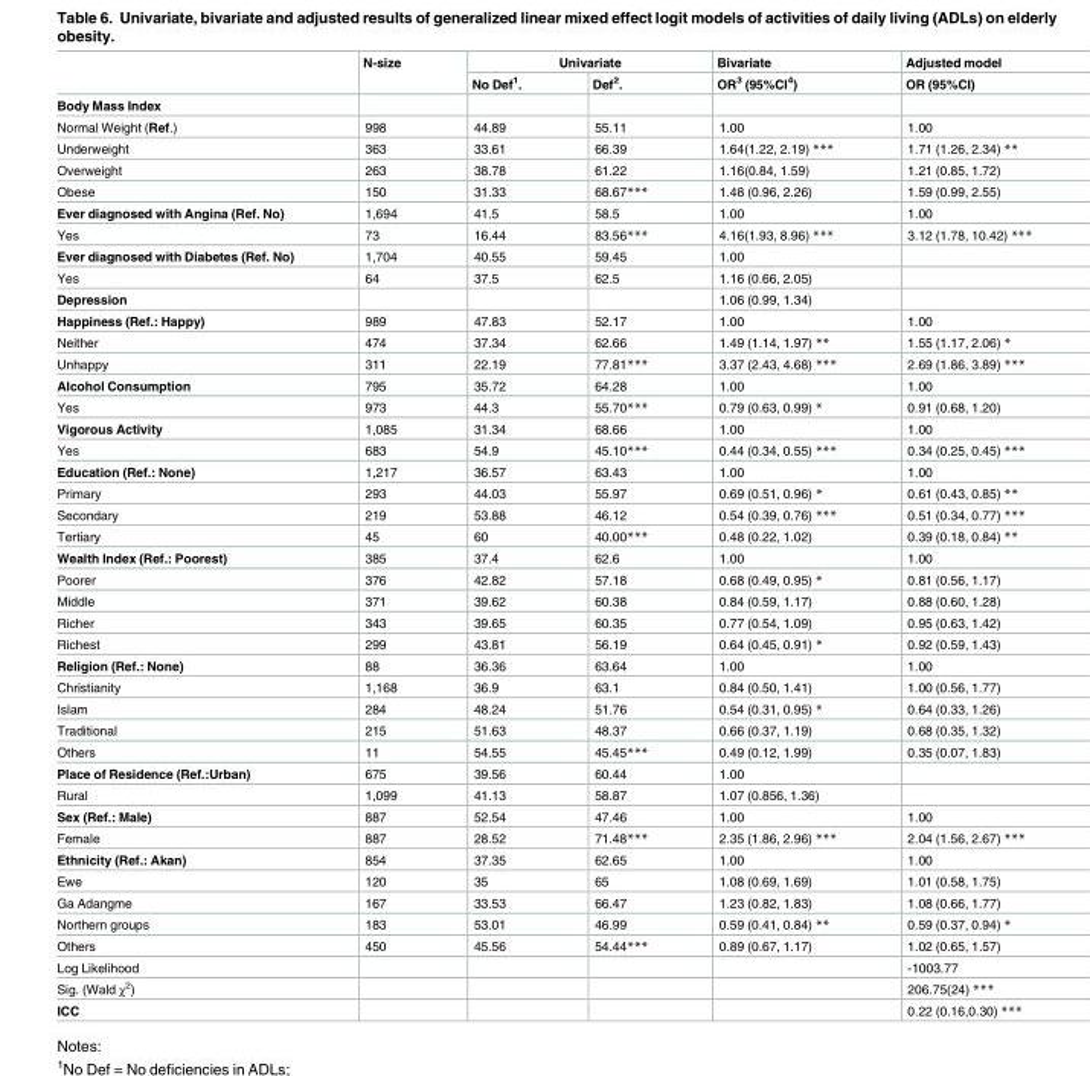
<table><thead><tr><td rowspan="2"></td><td rowspan="2">N-size</td><td colspan="2">Univariate</td><td rowspan="2">Bivariate OR<sup>3</sup> (95%CI<sup>4</sup>)</td><td rowspan="2">Adjusted model OR (95%CI)</td></tr><tr><td>No Def<sup>1</sup>.</td><td>Def<sup>2</sup>.</td></tr></thead><tbody><tr><td colspan="6">Body Mass Index</td></tr><tr><td>Normal Weight (Ref.)</td><td>998</td><td>44.89</td><td>55.11</td><td>1.00</td><td>1.00</td></tr><tr><td>Underweight</td><td>363</td><td>33.61</td><td>66.39</td><td>1.64(1.22, 2.19) ***</td><td>1.71 (1.26, 2.34) **</td></tr><tr><td>Overweight</td><td>263</td><td>38.78</td><td>61.22</td><td>1.16(0.84, 1.59)</td><td>1.21 (0.85, 1.72)</td></tr><tr><td>Obese</td><td>150</td><td>31.33</td><td>68.67***</td><td>1.48 (0.96, 2.26)</td><td>1.59 (0.99, 2.55)</td></tr><tr><td>Ever diagnosed with Angina (Ref. No)</td><td>1,694</td><td>41.5</td><td>58.5</td><td>1.00</td><td>1.00</td></tr><tr><td>Yes</td><td>73</td><td>16.44</td><td>83.56***</td><td>4.16(1.93, 8.96) ***</td><td>3.12 (1.78, 10.42) ***</td></tr><tr><td>Ever diagnosed with Diabetes (Ref. No)</td><td>1,704</td><td>40.55</td><td>59.45</td><td>1.00</td><td></td></tr><tr><td>Yes</td><td>64</td><td>37.5</td><td>62.5</td><td>1.16 (0.66, 2.05)</td><td></td></tr><tr><td>Depression</td><td></td><td></td><td></td><td>1.06 (0.99, 1.34)</td><td></td></tr><tr><td>Happiness (Ref.: Happy)</td><td>989</td><td>47.83</td><td>52.17</td><td>1.00</td><td>1.00</td></tr><tr><td>Neither</td><td>474</td><td>37.34</td><td>62.66</td><td>1.49 (1.14, 1.97) **</td><td>1.55 (1.17, 2.06) *</td></tr><tr><td>Unhappy</td><td>311</td><td>22.19</td><td>77.81***</td><td>3.37 (2.43, 4.68) ***</td><td>2.69 (1.86, 3.89) ***</td></tr><tr><td>Alcohol Consumption</td><td>795</td><td>35.72</td><td>64.28</td><td>1.00</td><td>1.00</td></tr><tr><td>Yes</td><td>973</td><td>44.3</td><td>55.70***</td><td>0.79 (0.63, 0.99) *</td><td>0.91 (0.68, 1.20)</td></tr><tr><td>Vigorous Activity</td><td>1,085</td><td>31.34</td><td>68.66</td><td>1.00</td><td>1.00</td></tr><tr><td>Yes</td><td>683</td><td>54.9</td><td>45.10***</td><td>0.44 (0.34, 0.55) ***</td><td>0.34 (0.25, 0.45) ***</td></tr><tr><td>Education (Ref.: None)</td><td>1,217</td><td>36.57</td><td>63.43</td><td>1.00</td><td>1.00</td></tr><tr><td>Primary</td><td>293</td><td>44.03</td><td>55.97</td><td>0.69 (0.51, 0.96) *</td><td>0.61 (0.43, 0.85) **</td></tr><tr><td>Secondary</td><td>219</td><td>53.88</td><td>46.12</td><td>0.54 (0.39, 0.76) ***</td><td>0.51 (0.34, 0.77) ***</td></tr><tr><td>Tertiary</td><td>45</td><td>60</td><td>40.00***</td><td>0.48 (0.22, 1.02)</td><td>0.39 (0.18, 0.84) **</td></tr><tr><td>Wealth Index (Ref.: Poorest)</td><td>385</td><td>37.4</td><td>62.6</td><td>1.00</td><td>1.00</td></tr><tr><td>Poorer</td><td>376</td><td>42.82</td><td>57.18</td><td>0.68 (0.49, 0.95) *</td><td>0.81 (0.56, 1.17)</td></tr><tr><td>Middle</td><td>371</td><td>39.62</td><td>60.38</td><td>0.84 (0.59, 1.17)</td><td>0.88 (0.60, 1.28)</td></tr><tr><td>Richer</td><td>343</td><td>39.65</td><td>60.35</td><td>0.77 (0.54, 1.09)</td><td>0.95 (0.63, 1.42)</td></tr><tr><td>Richest</td><td>299</td><td>43.81</td><td>56.19</td><td>0.64 (0.45, 0.91) *</td><td>0.92 (0.59, 1.43)</td></tr><tr><td>Religion (Ref.: None)</td><td>88</td><td>36.36</td><td>63.64</td><td>1.00</td><td>1.00</td></tr><tr><td>Christianity</td><td>1,168</td><td>36.9</td><td>63.1</td><td>0.84 (0.50, 1.41)</td><td>1.00 (0.56, 1.77)</td></tr><tr><td>Islam</td><td>284</td><td>48.24</td><td>51.76</td><td>0.54 (0.31, 0.95) *</td><td>0.64 (0.33, 1.26)</td></tr><tr><td>Traditional</td><td>215</td><td>51.63</td><td>48.37</td><td>0.66 (0.37, 1.19)</td><td>0.68 (0.35, 1.32)</td></tr><tr><td>Others</td><td>11</td><td>54.55</td><td>45.45***</td><td>0.49 (0.12, 1.99)</td><td>0.35 (0.07, 1.83)</td></tr><tr><td>Place of Residence (Ref.:Urban)</td><td>675</td><td>39.56</td><td>60.44</td><td>1.00</td><td></td></tr><tr><td>Rural</td><td>1,099</td><td>41.13</td><td>58.87</td><td>1.07 (0.856, 1.36)</td><td></td></tr><tr><td>Sex (Ref.: Male)</td><td>887</td><td>52.54</td><td>47.46</td><td>1.00</td><td>1.00</td></tr><tr><td>Female</td><td>887</td><td>28.52</td><td>71.48***</td><td>2.35 (1.86, 2.96) ***</td><td>2.04 (1.56, 2.67) ***</td></tr><tr><td>Ethnicity (Ref.: Akan)</td><td>854</td><td>37.35</td><td>62.65</td><td>1.00</td><td>1.00</td></tr><tr><td>Ewe</td><td>120</td><td>35</td><td>65</td><td>1.08 (0.69, 1.69)</td><td>1.01 (0.58, 1.75)</td></tr><tr><td>Ga Adangme</td><td>167</td><td>33.53</td><td>66.47</td><td>1.23 (0.82, 1.83)</td><td>1.08 (0.66, 1.77)</td></tr><tr><td>Northern groups</td><td>183</td><td>53.01</td><td>46.99</td><td>0.59 (0.41, 0.84) **</td><td>0.59 (0.37, 0.94) *</td></tr><tr><td>Others</td><td>450</td><td>45.56</td><td>54.44***</td><td>0.89 (0.67, 1.17)</td><td>1.02 (0.65, 1.57)</td></tr><tr><td>Log Likelihood</td><td></td><td></td><td></td><td></td><td>-1003.77</td></tr><tr><td>Sig. (Wald χ<sup>2</sup>)</td><td></td><td></td><td></td><td></td><td>206.75(24) ***</td></tr><tr><td>ICC</td><td></td><td></td><td></td><td></td><td>0.22 (0.16,0.30) ***</td></tr></tbody></table>